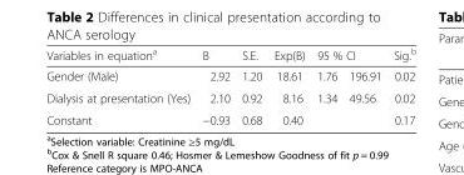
<table><thead><tr><td rowspan="2">Variables in equation<sup>a</sup> Gender (Male)</td><td rowspan="2">B 2.92</td><td rowspan="2">S.E. 1.20</td><td rowspan="2">Exp(B) 18.61</td><td colspan="2">95 % CI</td><td rowspan="2">Sig.<sup>b</sup> 0.02</td></tr><tr><td>1.76</td><td>196.91</td></tr></thead><tbody><tr><td>Dialysis at presentation (Yes)</td><td>2.10</td><td>0.92</td><td>8.16</td><td>1.34</td><td>49.56</td><td>0.02</td></tr><tr><td>Constant</td><td>−0.93</td><td>0.68</td><td>0.40</td><td></td><td></td><td>0.17</td></tr></tbody></table>